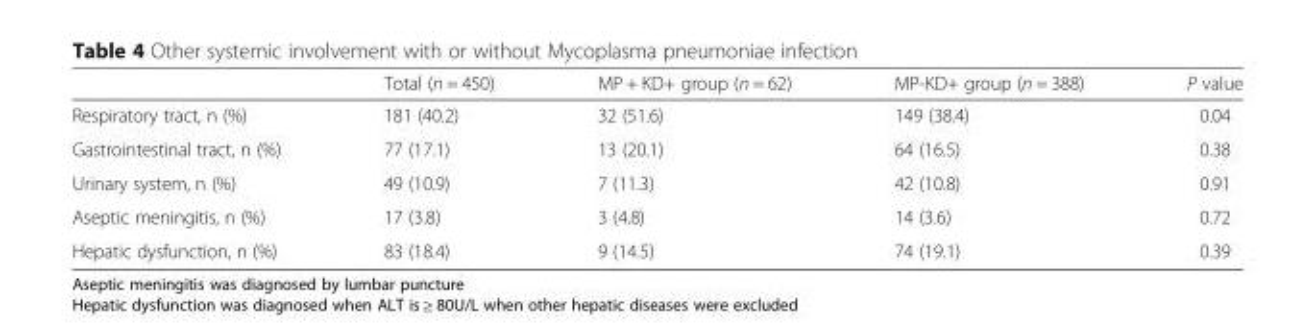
<table><thead><tr><td></td><td>Total (n = 450)</td><td>MP + KD+ group (n = 62)</td><td>MP-KD+ group (n = 388)</td><td>P value</td></tr></thead><tbody><tr><td>Respiratory tract, n (%)</td><td>181 (40.2)</td><td>32 (51.6)</td><td>149 (38.4)</td><td>0.04</td></tr><tr><td>Gastrointestinal tract, n (%)</td><td>77 (17.1)</td><td>13 (20.1)</td><td>64 (16.5)</td><td>0.38</td></tr><tr><td>Urinary system, n (%)</td><td>49 (10.9)</td><td>7 (11.3)</td><td>42 (10.8)</td><td>0.91</td></tr><tr><td>Aseptic meningitis, n (%)</td><td>17 (3.8)</td><td>3 (4.8)</td><td>14 (3.6)</td><td>0.72</td></tr><tr><td>Hepatic dysfunction, n (%)</td><td>83 (18.4)</td><td>9 (14.5)</td><td>74 (19.1)</td><td>0.39</td></tr></tbody></table>